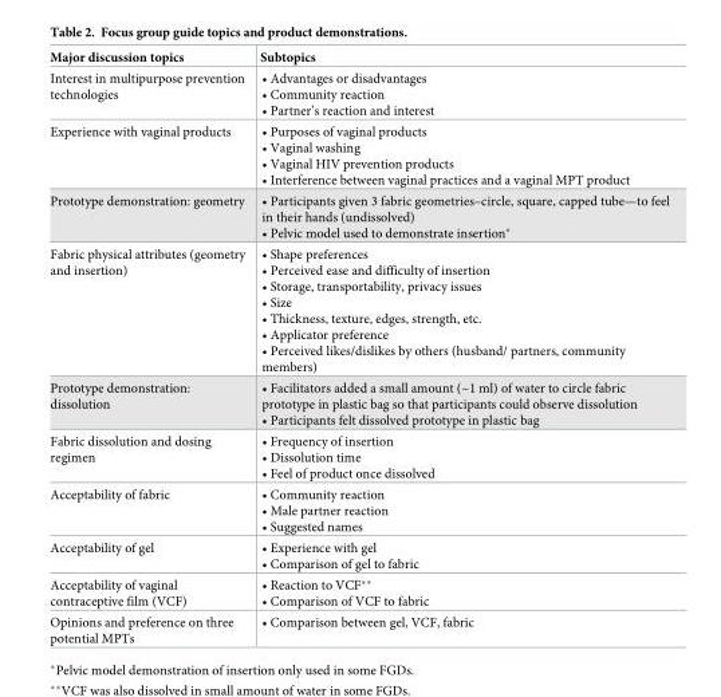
<table><thead><tr><td>Major discussion topics</td><td>Subtopics</td></tr></thead><tbody><tr><td>Interest in multipurpose prevention technologies</td><td>• Advantages or disadvantages • Community reaction • Partner’s reaction and interest</td></tr><tr><td>Experience with vaginal products</td><td>• Purposes of vaginal products • Vaginal washing • Vaginal HIV prevention products • Interference between vaginal practices and a vaginal MPT product</td></tr><tr><td>Prototype demonstration: geometry</td><td>• Participants given 3 fabric geometries–circle, square, capped tube—to feel in their hands (undissolved) • Pelvic model used to demonstrate insertion*</td></tr><tr><td>Fabric physical attributes (geometry and insertion)</td><td>• Shape preferences • Perceived ease and difficulty of insertion • Storage, transportability, privacy issues • Size • Thickness, texture, edges, strength, etc. • Applicator preference • Perceived likes/dislikes by others (husband/ partners, community members)</td></tr><tr><td>Prototype demonstration: dissolution</td><td>• Facilitators added a small amount (~1 ml) of water to circle fabric prototype in plastic bag so that participants could observe dissolution • Participants felt dissolved prototype in plastic bag</td></tr><tr><td>Fabric dissolution and dosing regimen</td><td>• Frequency of insertion • Dissolution time • Feel of product once dissolved</td></tr><tr><td>Acceptability of fabric</td><td>• Community reaction • Male partner reaction • Suggested names</td></tr><tr><td>Acceptability of gel</td><td>• Experience with gel • Comparison of gel to fabric</td></tr><tr><td>Acceptability of vaginal contraceptive film (VCF)</td><td>• Reaction to VCF** • Comparison of VCF to fabric</td></tr><tr><td>Opinions and preference on three potential MPTs</td><td>• Comparison between gel, VCF, fabric</td></tr></tbody></table>